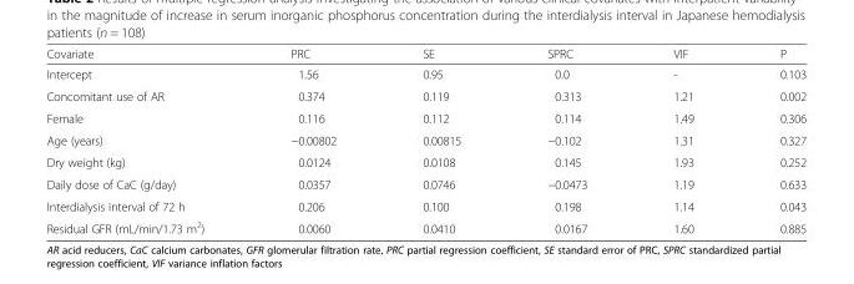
<table><thead><tr><td>Covariate</td><td>PRC</td><td>SE</td><td>SPRC</td><td>VIF</td><td>P</td></tr></thead><tbody><tr><td>Intercept</td><td>1.56</td><td>0.95</td><td>0.0</td><td>-</td><td>0.103</td></tr><tr><td>Concomitant use of AR</td><td>0.374</td><td>0.119</td><td>0.313</td><td>1.21</td><td>0.002</td></tr><tr><td>Female</td><td>0.116</td><td>0.112</td><td>0.114</td><td>1.49</td><td>0.306</td></tr><tr><td>Age (years)</td><td>−0.00802</td><td>0.00815</td><td>−0.102</td><td>1.31</td><td>0.327</td></tr><tr><td>Dry weight (kg)</td><td>0.0124</td><td>0.0108</td><td>0.145</td><td>1.93</td><td>0.252</td></tr><tr><td>Daily dose of CaC (g/day)</td><td>0.0357</td><td>0.0746</td><td>−0.0473</td><td>1.19</td><td>0.633</td></tr><tr><td>Interdialysis interval of 72 h</td><td>0.206</td><td>0.100</td><td>0.198</td><td>1.14</td><td>0.043</td></tr><tr><td>Residual GFR (mL/min/1.73 m<sup>2</sup>)</td><td>0.0060</td><td>0.0410</td><td>0.0167</td><td>1.60</td><td>0.885</td></tr></tbody></table>